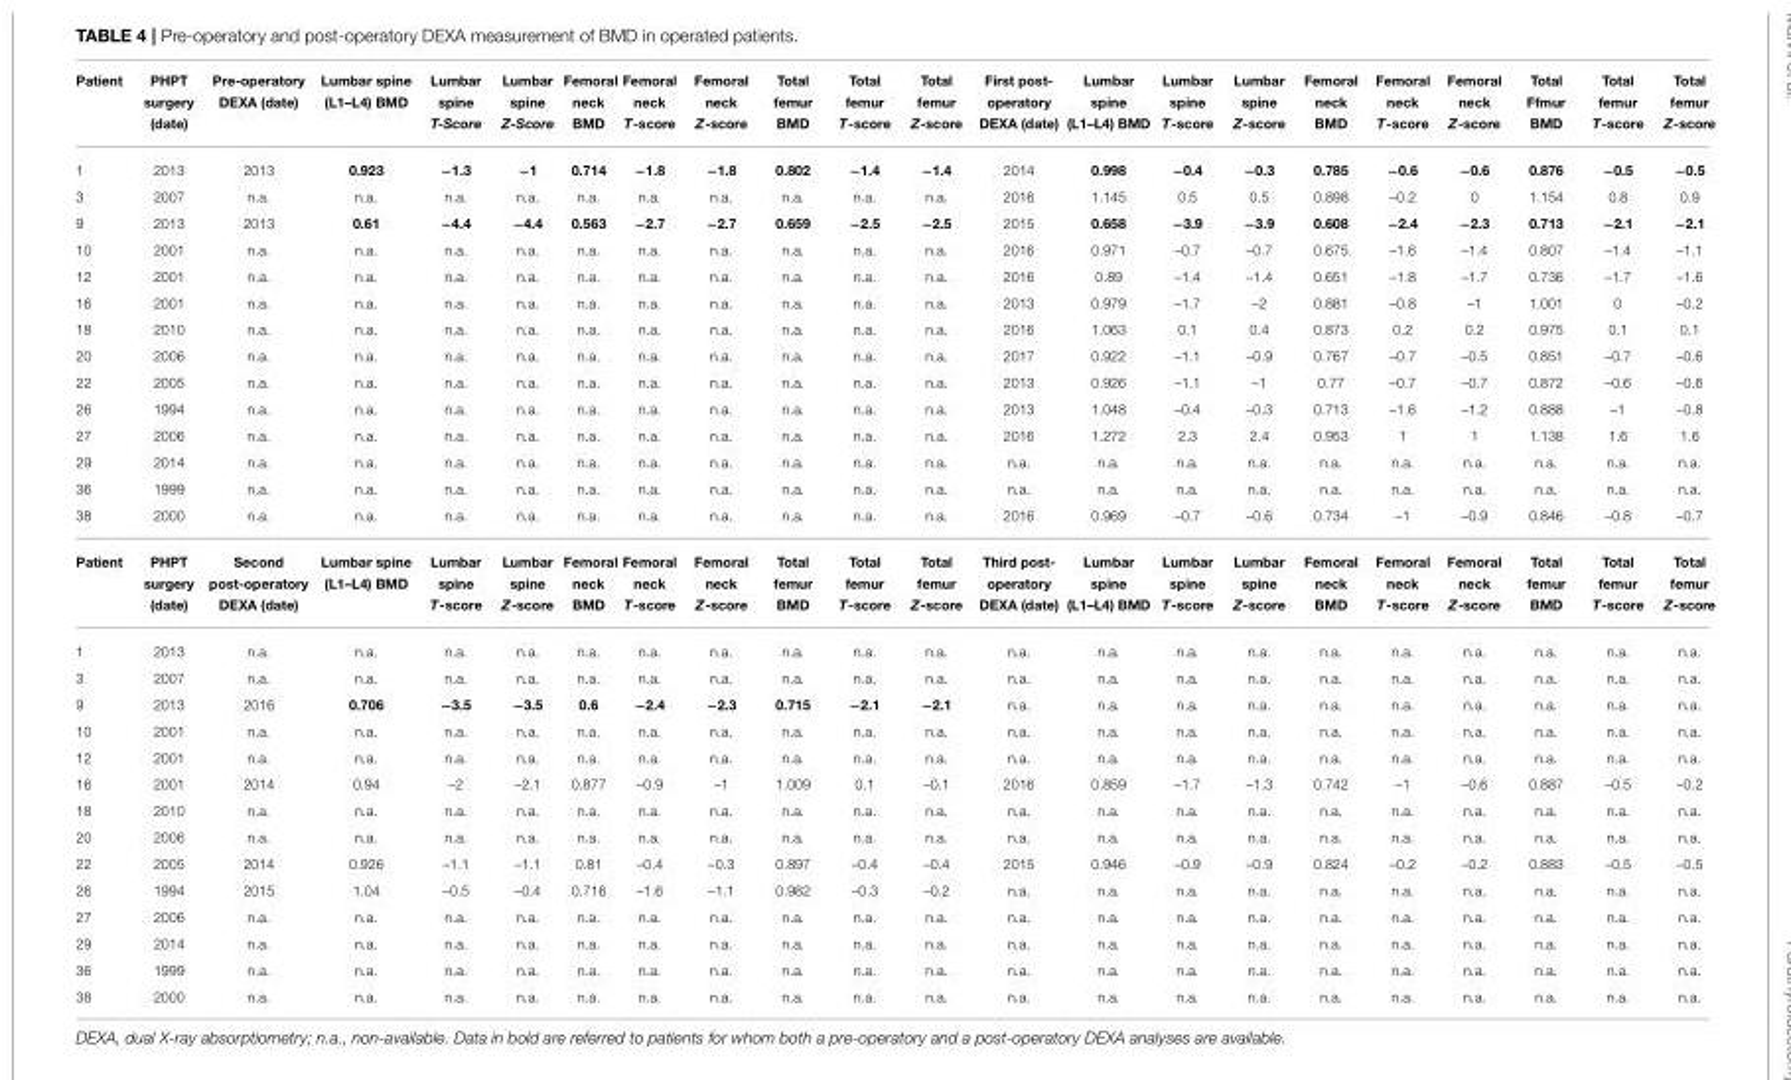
<table><thead><tr><td>Patient</td><td>PHPT surgery (date)</td><td>Pre-operatory DEXA (date)</td><td>Lumbar spine (L1–L4) BMD</td><td>Lumbar spine T-Score</td><td>Lumbar spine Z-Score</td><td>Femoral neck BMD</td><td>Femoral neck T-score</td><td>Femoral neck Z-score</td><td>Total femur BMD</td><td>Total femur T-score</td><td>Total femur Z-score</td><td>First post- operatory DEXA (date)</td><td>Lumbar spine (L1–L4) BMD</td><td>Lumbar spine T-score</td><td>Lumbar spine Z-score</td><td>Femoral neck BMD</td><td>Femoral neck T-score</td><td>Femoral neck Z-score</td><td>Total Ffmur BMD</td><td>Total femur T-score</td><td>Total femur Z-score</td></tr></thead><tbody><tr><td>1</td><td>2013</td><td>2013</td><td>0.923</td><td>−1.3</td><td>−1</td><td>0.714</td><td>−1.8</td><td>−1.8</td><td>0.802</td><td>−1.4</td><td>−1.4</td><td>2014</td><td>0.998</td><td>−0.4</td><td>−0.3</td><td>0.785</td><td>−0.6</td><td>−0.6</td><td>0.876</td><td>−0.5</td><td>−0.5</td></tr><tr><td>3</td><td>2007</td><td>n.a.</td><td>n.a.</td><td>n.a.</td><td>n.a.</td><td>n.a.</td><td>n.a.</td><td>n.a.</td><td>n.a.</td><td>n.a.</td><td>n.a.</td><td>2016</td><td>1.145</td><td>0.5</td><td>0.5</td><td>0.898</td><td>–0.2</td><td>0</td><td>1.154</td><td>0.8</td><td>0.9</td></tr><tr><td>9</td><td>2013</td><td>2013</td><td>0.61</td><td>−4.4</td><td>−4.4</td><td>0.563</td><td>−2.7</td><td>−2.7</td><td>0.659</td><td>−2.5</td><td>−2.5</td><td>2015</td><td>0.658</td><td>−3.9</td><td>−3.9</td><td>0.608</td><td>−2.4</td><td>−2.3</td><td>0.713</td><td>−2.1</td><td>−2.1</td></tr><tr><td>10</td><td>2001</td><td>n.a.</td><td>n.a.</td><td>n.a.</td><td>n.a.</td><td>n.a.</td><td>n.a.</td><td>n.a.</td><td>n.a.</td><td>n.a.</td><td>n.a.</td><td>2016</td><td>0.971</td><td>–0.7</td><td>–0.7</td><td>0.675</td><td>–1.6</td><td>–1.4</td><td>0.807</td><td>–1.4</td><td>–1.1</td></tr><tr><td>12</td><td>2001</td><td>n.a.</td><td>n.a.</td><td>n.a.</td><td>n.a.</td><td>n.a.</td><td>n.a.</td><td>n.a.</td><td>n.a.</td><td>n.a.</td><td>n.a.</td><td>2016</td><td>0.89</td><td>–1.4</td><td>–1.4</td><td>0.651</td><td>–1.8</td><td>–1.7</td><td>0.736</td><td>–1.7</td><td>–1.6</td></tr><tr><td>16</td><td>2001</td><td>n.a.</td><td>n.a.</td><td>n.a.</td><td>n.a.</td><td>n.a.</td><td>n.a.</td><td>n.a.</td><td>n.a.</td><td>n.a.</td><td>n.a.</td><td>2013</td><td>0.979</td><td>–1.7</td><td>–2</td><td>0.881</td><td>–0.8</td><td>–1</td><td>1.001</td><td>0</td><td>–0.2</td></tr><tr><td>18</td><td>2010</td><td>n.a.</td><td>n.a.</td><td>n.a.</td><td>n.a.</td><td>n.a.</td><td>n.a.</td><td>n.a.</td><td>n.a.</td><td>n.a.</td><td>n.a.</td><td>2016</td><td>1.063</td><td>0.1</td><td>0.4</td><td>0.873</td><td>0.2</td><td>0.2</td><td>0.975</td><td>0.1</td><td>0.1</td></tr><tr><td>20</td><td>2006</td><td>n.a.</td><td>n.a.</td><td>n.a.</td><td>n.a.</td><td>n.a.</td><td>n.a.</td><td>n.a.</td><td>n.a.</td><td>n.a.</td><td>n.a.</td><td>2017</td><td>0.922</td><td>–1.1</td><td>–0.9</td><td>0.767</td><td>–0.7</td><td>–0.5</td><td>0.851</td><td>–0.7</td><td>–0.6</td></tr><tr><td>22</td><td>2005</td><td>n.a.</td><td>n.a.</td><td>n.a.</td><td>n.a.</td><td>n.a.</td><td>n.a.</td><td>n.a.</td><td>n.a.</td><td>n.a.</td><td>n.a.</td><td>2013</td><td>0.926</td><td>–1.1</td><td>–1</td><td>0.77</td><td>–0.7</td><td>–0.7</td><td>0.872</td><td>–0.6</td><td>–0.6</td></tr><tr><td>26</td><td>1994</td><td>n.a.</td><td>n.a.</td><td>n.a.</td><td>n.a.</td><td>n.a.</td><td>n.a.</td><td>n.a.</td><td>n.a.</td><td>n.a.</td><td>n.a.</td><td>2013</td><td>1.048</td><td>–0.4</td><td>–0.3</td><td>0.713</td><td>–1.6</td><td>–1.2</td><td>0.888</td><td>–1</td><td>–0.8</td></tr><tr><td>27</td><td>2006</td><td>n.a.</td><td>n.a.</td><td>n.a.</td><td>n.a.</td><td>n.a.</td><td>n.a.</td><td>n.a.</td><td>n.a.</td><td>n.a.</td><td>n.a.</td><td>2016</td><td>1.272</td><td>2.3</td><td>2.4</td><td>0.953</td><td>1</td><td>1</td><td>1.138</td><td>1.6</td><td>1.6</td></tr><tr><td>29</td><td>2014</td><td>n.a.</td><td>n.a.</td><td>n.a.</td><td>n.a.</td><td>n.a.</td><td>n.a.</td><td>n.a.</td><td>n.a.</td><td>n.a.</td><td>n.a.</td><td>n.a.</td><td>n.a.</td><td>n.a.</td><td>n.a.</td><td>n.a.</td><td>n.a.</td><td>n.a.</td><td>n.a.</td><td>n.a.</td><td>n.a.</td></tr><tr><td>36</td><td>1999</td><td>n.a.</td><td>n.a.</td><td>n.a.</td><td>n.a.</td><td>n.a.</td><td>n.a.</td><td>n.a.</td><td>n.a.</td><td>n.a.</td><td>n.a.</td><td>n.a.</td><td>n.a.</td><td>n.a.</td><td>n.a.</td><td>n.a.</td><td>n.a.</td><td>n.a.</td><td>n.a.</td><td>n.a.</td><td>n.a.</td></tr><tr><td>38</td><td>2000</td><td>n.a.</td><td>n.a.</td><td>n.a.</td><td>n.a.</td><td>n.a.</td><td>n.a.</td><td>n.a.</td><td>n.a.</td><td>n.a.</td><td>n.a.</td><td>2016</td><td>0.969</td><td>–0.7</td><td>–0.6</td><td>0.734</td><td>–1</td><td>–0.9</td><td>0.846</td><td>–0.8</td><td>–0.7</td></tr><tr><td>Patient</td><td>PHPT surgery (date)</td><td>Second post-operatory DEXA (date)</td><td>Lumbar spine (L1–L4) BMD</td><td>Lumbar spine T-score</td><td>Lumbar spine Z-score</td><td>Femoral neck BMD</td><td>Femoral neck T-score</td><td>Femoral neck Z-score</td><td>Total femur BMD</td><td>Total femur T-score</td><td>Total femur Z-score</td><td>Third post- operatory DEXA (date)</td><td>Lumbar spine (L1–L4) BMD</td><td>Lumbar spine T-score</td><td>Lumbar spine Z-score</td><td>Femoral neck BMD</td><td>Femoral neck T-score</td><td>Femoral neck Z-score</td><td>Total femur BMD</td><td>Total femur T-score</td><td>Total femur Z-score</td></tr><tr><td>1</td><td>2013</td><td>n.a.</td><td>n.a.</td><td>n.a.</td><td>n.a.</td><td>n.a.</td><td>n.a.</td><td>n.a.</td><td>n.a.</td><td>n.a.</td><td>n.a.</td><td>n.a.</td><td>n.a.</td><td>n.a.</td><td>n.a.</td><td>n.a.</td><td>n.a.</td><td>n.a.</td><td>n.a.</td><td>n.a.</td><td>n.a.</td></tr><tr><td>3</td><td>2007</td><td>n.a.</td><td>n.a.</td><td>n.a.</td><td>n.a.</td><td>n.a.</td><td>n.a.</td><td>n.a.</td><td>n.a.</td><td>n.a.</td><td>n.a.</td><td>n.a.</td><td>n.a.</td><td>n.a.</td><td>n.a.</td><td>n.a.</td><td>n.a.</td><td>n.a.</td><td>n.a.</td><td>n.a.</td><td>n.a.</td></tr><tr><td>9</td><td>2013</td><td>2016</td><td>0.706</td><td>−3.5</td><td>−3.5</td><td>0.6</td><td>−2.4</td><td>−2.3</td><td>0.715</td><td>−2.1</td><td>−2.1</td><td>n.a.</td><td>n.a.</td><td>n.a.</td><td>n.a.</td><td>n.a.</td><td>n.a.</td><td>n.a.</td><td>n.a.</td><td>n.a.</td><td>n.a.</td></tr><tr><td>10</td><td>2001</td><td>n.a.</td><td>n.a.</td><td>n.a.</td><td>n.a.</td><td>n.a.</td><td>n.a.</td><td>n.a.</td><td>n.a.</td><td>n.a.</td><td>n.a.</td><td>n.a.</td><td>n.a.</td><td>n.a.</td><td>n.a.</td><td>n.a.</td><td>n.a.</td><td>n.a.</td><td>n.a.</td><td>n.a.</td><td>n.a.</td></tr><tr><td>12</td><td>2001</td><td>n.a.</td><td>n.a.</td><td>n.a.</td><td>n.a.</td><td>n.a.</td><td>n.a.</td><td>n.a.</td><td>n.a.</td><td>n.a.</td><td>n.a.</td><td>n.a.</td><td>n.a.</td><td>n.a.</td><td>n.a.</td><td>n.a.</td><td>n.a.</td><td>n.a.</td><td>n.a.</td><td>n.a.</td><td>n.a.</td></tr><tr><td>16</td><td>2001</td><td>2014</td><td>0.94</td><td>–2</td><td>–2.1</td><td>0.877</td><td>–0.9</td><td>–1</td><td>1.009</td><td>0.1</td><td>–0.1</td><td>2016</td><td>0.859</td><td>–1.7</td><td>–1.3</td><td>0.742</td><td>–1</td><td>–0.6</td><td>0.887</td><td>–0.5</td><td>–0.2</td></tr><tr><td>18</td><td>2010</td><td>n.a.</td><td>n.a.</td><td>n.a.</td><td>n.a.</td><td>n.a.</td><td>n.a.</td><td>n.a.</td><td>n.a.</td><td>n.a.</td><td>n.a.</td><td>n.a.</td><td>n.a.</td><td>n.a.</td><td>n.a.</td><td>n.a.</td><td>n.a.</td><td>n.a.</td><td>n.a.</td><td>n.a.</td><td>n.a.</td></tr><tr><td>20</td><td>2006</td><td>n.a.</td><td>n.a.</td><td>n.a.</td><td>n.a.</td><td>n.a.</td><td>n.a.</td><td>n.a.</td><td>n.a.</td><td>n.a.</td><td>n.a.</td><td>n.a.</td><td>n.a.</td><td>n.a.</td><td>n.a.</td><td>n.a.</td><td>n.a.</td><td>n.a.</td><td>n.a.</td><td>n.a.</td><td>n.a.</td></tr><tr><td>22</td><td>2005</td><td>2014</td><td>0.926</td><td>–1.1</td><td>–1.1</td><td>0.81</td><td>–0.4</td><td>–0.3</td><td>0.897</td><td>–0.4</td><td>–0.4</td><td>2015</td><td>0.946</td><td>–0.9</td><td>–0.9</td><td>0.824</td><td>–0.2</td><td>–0.2</td><td>0.883</td><td>–0.5</td><td>–0.5</td></tr><tr><td>26</td><td>1994</td><td>2015</td><td>1.04</td><td>–0.5</td><td>–0.4</td><td>0.716</td><td>–1.6</td><td>–1.1</td><td>0.982</td><td>–0.3</td><td>–0.2</td><td>n.a.</td><td>n.a.</td><td>n.a.</td><td>n.a.</td><td>n.a.</td><td>n.a.</td><td>n.a.</td><td>n.a.</td><td>n.a.</td><td>n.a.</td></tr><tr><td>27</td><td>2006</td><td>n.a.</td><td>n.a.</td><td>n.a.</td><td>n.a.</td><td>n.a.</td><td>n.a.</td><td>n.a.</td><td>n.a.</td><td>n.a.</td><td>n.a.</td><td>n.a.</td><td>n.a.</td><td>n.a.</td><td>n.a.</td><td>n.a.</td><td>n.a.</td><td>n.a.</td><td>n.a.</td><td>n.a.</td><td>n.a.</td></tr><tr><td>29</td><td>2014</td><td>n.a.</td><td>n.a.</td><td>n.a.</td><td>n.a.</td><td>n.a.</td><td>n.a.</td><td>n.a.</td><td>n.a.</td><td>n.a.</td><td>n.a.</td><td>n.a.</td><td>n.a.</td><td>n.a.</td><td>n.a.</td><td>n.a.</td><td>n.a.</td><td>n.a.</td><td>n.a.</td><td>n.a.</td><td>n.a.</td></tr><tr><td>36</td><td>1999</td><td>n.a.</td><td>n.a.</td><td>n.a.</td><td>n.a.</td><td>n.a.</td><td>n.a.</td><td>n.a.</td><td>n.a.</td><td>n.a.</td><td>n.a.</td><td>n.a.</td><td>n.a.</td><td>n.a.</td><td>n.a.</td><td>n.a.</td><td>n.a.</td><td>n.a.</td><td>n.a.</td><td>n.a.</td><td>n.a.</td></tr><tr><td>38</td><td>2000</td><td>n.a.</td><td>n.a.</td><td>n.a.</td><td>n.a.</td><td>n.a.</td><td>n.a.</td><td>n.a.</td><td>n.a.</td><td>n.a.</td><td>n.a.</td><td>n.a.</td><td>n.a.</td><td>n.a.</td><td>n.a.</td><td>n.a.</td><td>n.a.</td><td>n.a.</td><td>n.a.</td><td>n.a.</td><td>n.a.</td></tr></tbody></table>